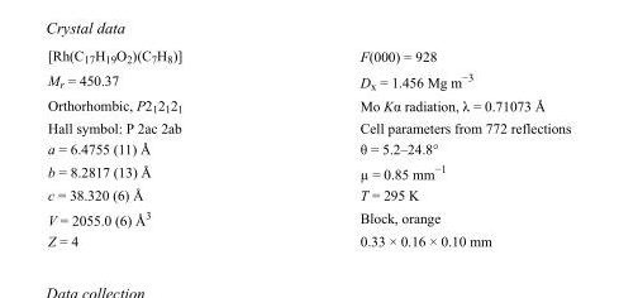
<table><tbody><tr><td>[Rh(C<sub>17</sub>H<sub>19</sub>O<sub>2</sub>)(C<sub>7</sub>H<sub>8</sub>)]</td><td>F(000) = 928</td></tr><tr><td>M<sub>r</sub> = 450.37</td><td>D<sub>x</sub> = 1.456 Mg m<sup>−3</sup></td></tr><tr><td>Orthorhombic, P2<sub>1</sub>2<sub>1</sub>2<sub>1</sub></td><td>Mo Kα radiation, λ = 0.71073 Å</td></tr><tr><td>Hall symbol: P 2ac 2ab</td><td>Cell parameters from 772 reflections</td></tr><tr><td>a = 6.4755 (11) Å</td><td>θ = 5.2–24.8°</td></tr><tr><td>b = 8.2817 (13) Å</td><td>µ = 0.85 mm<sup>−1</sup></td></tr><tr><td>c = 38.320 (6) Å</td><td>T = 295 K</td></tr><tr><td>V = 2055.0 (6) Å<sup>3</sup></td><td>Block, orange</td></tr><tr><td>Z = 4</td><td>0.33 × 0.16 × 0.10 mm</td></tr></tbody></table>